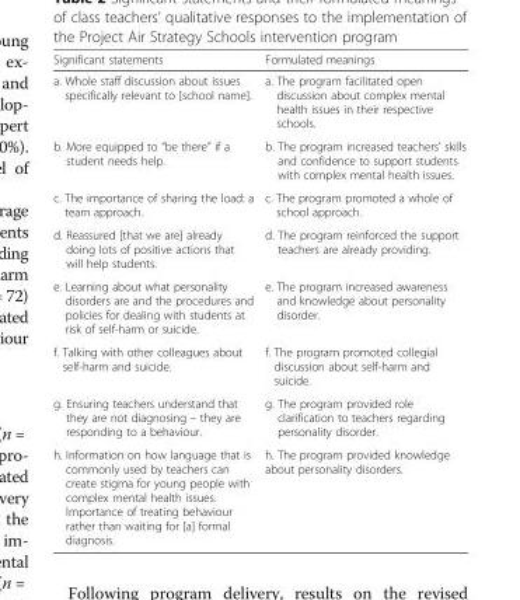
<table><thead><tr><td>Significant statements</td><td>Formulated meanings</td></tr></thead><tbody><tr><td>a. Whole staff discussion about issues specifically relevant to [school name].</td><td>a. The program facilitated open discussion about complex mental health issues in their respective schools.</td></tr><tr><td>b. More equipped to “be there” if a student needs help.</td><td>b. The program increased teachers’ skills and confidence to support students with complex mental health issues.</td></tr><tr><td>c. The importance of sharing the load: a team approach.</td><td>c. The program promoted a whole of school approach.</td></tr><tr><td>d. Reassured [that we are] already doing lots of positive actions that will help students.</td><td>d. The program reinforced the support teachers are already providing.</td></tr><tr><td>e. Learning about what personality disorders are and the procedures and policies for dealing with students at risk of self-harm or suicide.</td><td>e. The program increased awareness and knowledge about personality disorder.</td></tr><tr><td>f. Talking with other colleagues about self-harm and suicide.</td><td>f. The program promoted collegial discussion about self-harm and suicide.</td></tr><tr><td>g. Ensuring teachers understand that they are not diagnosing – they are responding to a behaviour.</td><td>g. The program provided role clarification to teachers regarding personality disorder.</td></tr><tr><td>h. Information on how language that is commonly used by teachers can create stigma for young people with complex mental health issues. Importance of treating behaviour rather than waiting for [a] formal diagnosis.</td><td>h. The program provided knowledge about personality disorders.</td></tr></tbody></table>